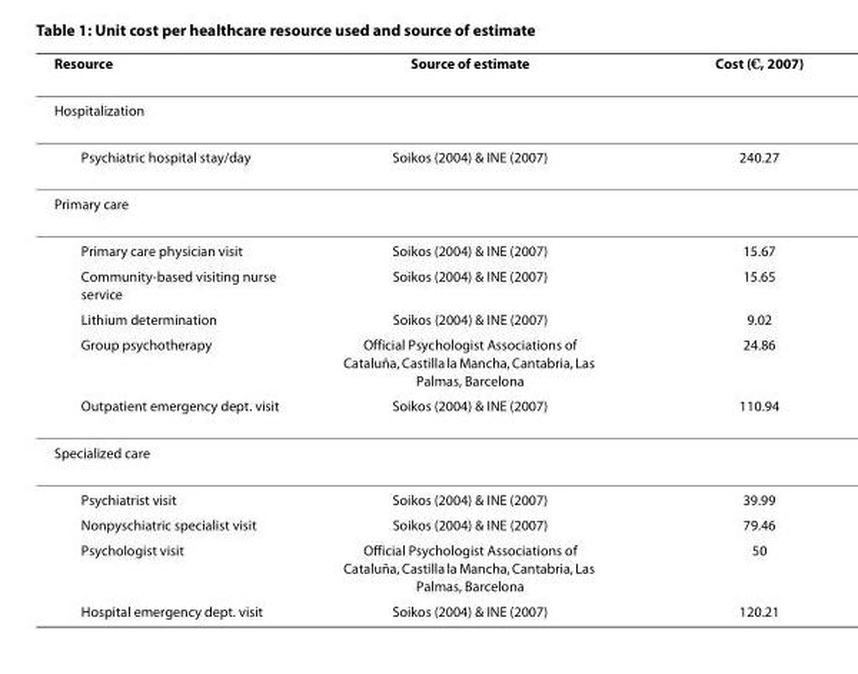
<table><thead><tr><td>Resource</td><td>Source of estimate</td><td>Cost (€, 2007)</td></tr></thead><tbody><tr><td colspan="3">Hospitalization</td></tr><tr><td>Psychiatric hospital stay/day</td><td>Soikos (2004) &amp; INE (2007)</td><td>240.27</td></tr><tr><td colspan="3">Primary care</td></tr><tr><td>Primary care physician visit</td><td>Soikos (2004) &amp; INE (2007)</td><td>15.67</td></tr><tr><td>Community-based visiting nurse service</td><td>Soikos (2004) &amp; INE (2007)</td><td>15.65</td></tr><tr><td>Lithium determination</td><td>Soikos (2004) &amp; INE (2007)</td><td>9.02</td></tr><tr><td>Group psychotherapy</td><td>Official Psychologist Associations of Cataluña, Castilla la Mancha, Cantabria, Las Palmas, Barcelona</td><td>24.86</td></tr><tr><td>Outpatient emergency dept. visit</td><td>Soikos (2004) &amp; INE (2007)</td><td>110.94</td></tr><tr><td colspan="3">Specialized care</td></tr><tr><td>Psychiatrist visit</td><td>Soikos (2004) &amp; INE (2007)</td><td>39.99</td></tr><tr><td>Nonpyschiatric specialist visit</td><td>Soikos (2004) &amp; INE (2007)</td><td>79.46</td></tr><tr><td>Psychologist visit</td><td>Official Psychologist Associations of Cataluña, Castilla la Mancha, Cantabria, Las Palmas, Barcelona</td><td>50</td></tr><tr><td>Hospital emergency dept. visit</td><td>Soikos (2004) &amp; INE (2007)</td><td>120.21</td></tr></tbody></table>